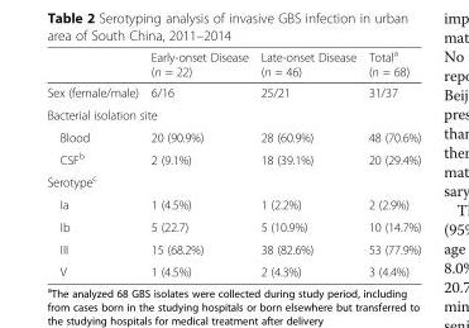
<table><thead><tr><td></td><td>Early-onset Disease (n = 22)</td><td>Late-onset Disease (n = 46)</td><td>Total<sup>a</sup> (n = 68)</td></tr></thead><tbody><tr><td>Sex (female/male)</td><td>6/16</td><td>25/21</td><td>31/37</td></tr><tr><td colspan="4">Bacterial isolation site</td></tr><tr><td>Blood</td><td>20 (90.9%)</td><td>28 (60.9%)</td><td>48 (70.6%)</td></tr><tr><td>CSF<sup>b</sup></td><td>2 (9.1%)</td><td>18 (39.1%)</td><td>20 (29.4%)</td></tr><tr><td colspan="4">Serotype<sup>c</sup></td></tr><tr><td>Ia</td><td>1 (4.5%)</td><td>1 (2.2%)</td><td>2 (2.9%)</td></tr><tr><td>Ib</td><td>5 (22.7)</td><td>5 (10.9%)</td><td>10 (14.7%)</td></tr><tr><td>III</td><td>15 (68.2%)</td><td>38 (82.6%)</td><td>53 (77.9%)</td></tr><tr><td>V</td><td>1 (4.5%)</td><td>2 (4.3%)</td><td>3 (4.4%)</td></tr></tbody></table>